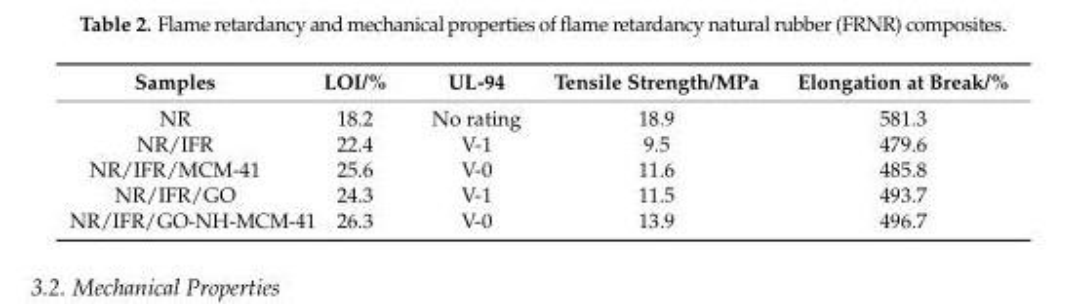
<table><thead><tr><td>Samples</td><td>LOI/%</td><td>UL-94</td><td>Tensile Strength/MPa</td><td>Elongation at Break/%</td></tr></thead><tbody><tr><td>NR</td><td>18.2</td><td>No rating</td><td>18.9</td><td>581.3</td></tr><tr><td>NR/IFR</td><td>22.4</td><td>V-1</td><td>9.5</td><td>479.6</td></tr><tr><td>NR/IFR/MCM-41</td><td>25.6</td><td>V-0</td><td>11.6</td><td>485.8</td></tr><tr><td>NR/IFR/GO</td><td>24.3</td><td>V-1</td><td>11.5</td><td>493.7</td></tr><tr><td>NR/IFR/GO-NH-MCM-41</td><td>26.3</td><td>V-0</td><td>13.9</td><td>496.7</td></tr></tbody></table>